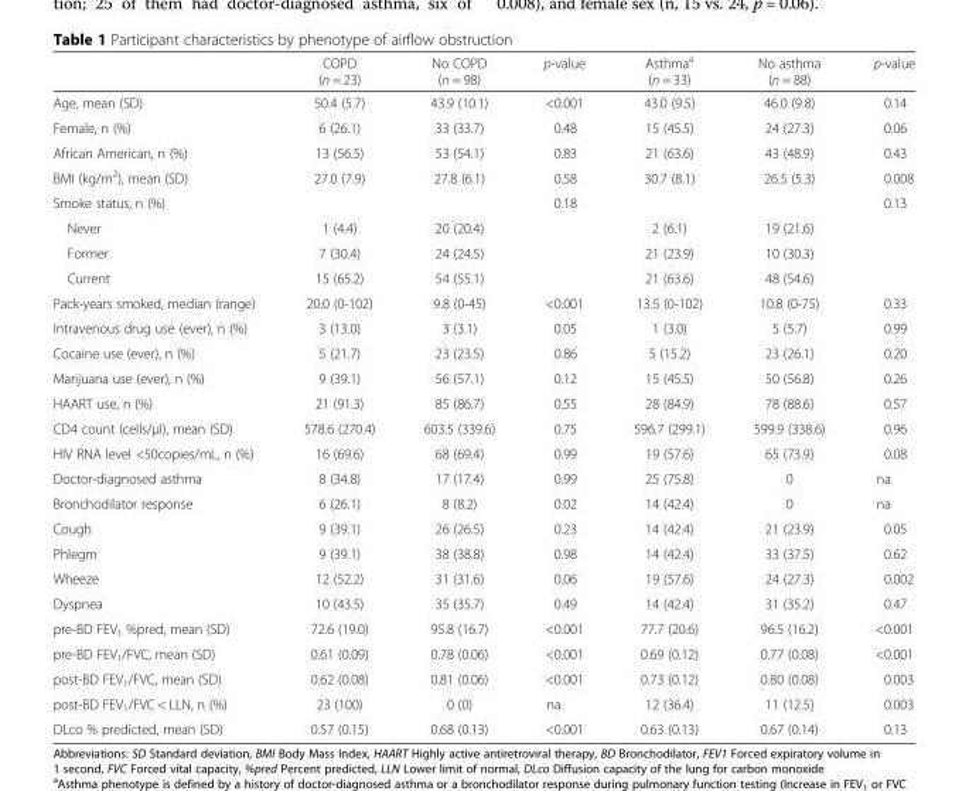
<table><thead><tr><td></td><td>COPD (n = 23)</td><td>No COPD (n = 98)</td><td>p-value</td><td>Asthma<sup>a</sup> (n = 33)</td><td>No asthma (n = 88)</td><td>p-value</td></tr></thead><tbody><tr><td>Age, mean (SD)</td><td>50.4 (5.7)</td><td>43.9 (10.1)</td><td>&lt;0.001</td><td>43.0 (9.5)</td><td>46.0 (9.8)</td><td>0.14</td></tr><tr><td>Female, n (%)</td><td>6 (26.1)</td><td>33 (33.7)</td><td>0.48</td><td>15 (45.5)</td><td>24 (27.3)</td><td>0.06</td></tr><tr><td>African American, n (%)</td><td>13 (56.5)</td><td>53 (54.1)</td><td>0.83</td><td>21 (63.6)</td><td>43 (48.9)</td><td>0.43</td></tr><tr><td>BMI (kg/m<sup>2</sup>), mean (SD)</td><td>27.0 (7.9)</td><td>27.8 (6.1)</td><td>0.58</td><td>30.7 (8.1)</td><td>26.5 (5.3)</td><td>0.008</td></tr><tr><td>Smoke status, n (%)</td><td></td><td></td><td>0.18</td><td></td><td></td><td>0.13</td></tr><tr><td>Never</td><td>1 (4.4)</td><td>20 (20.4)</td><td></td><td>2 (6.1)</td><td>19 (21.6)</td><td></td></tr><tr><td>Former</td><td>7 (30.4)</td><td>24 (24.5)</td><td></td><td>21 (23.9)</td><td>10 (30.3)</td><td></td></tr><tr><td>Current</td><td>15 (65.2)</td><td>54 (55.1)</td><td></td><td>21 (63.6)</td><td>48 (54.6)</td><td></td></tr><tr><td>Pack-years smoked, median (range)</td><td>20.0 (0-102)</td><td>9.8 (0-45)</td><td>&lt;0.001</td><td>13.5 (0-102)</td><td>10.8 (0-75)</td><td>0.33</td></tr><tr><td>Intravenous drug use (ever), n (%)</td><td>3 (13.0)</td><td>3 (3.1)</td><td>0.05</td><td>1 (3.0)</td><td>5 (5.7)</td><td>0.99</td></tr><tr><td>Cocaine use (ever), n (%)</td><td>5 (21.7)</td><td>23 (23.5)</td><td>0.86</td><td>5 (15.2)</td><td>23 (26.1)</td><td>0.20</td></tr><tr><td>Marijuana use (ever), n (%)</td><td>9 (39.1)</td><td>56 (57.1)</td><td>0.12</td><td>15 (45.5)</td><td>50 (56.8)</td><td>0.26</td></tr><tr><td>HAART use, n (%)</td><td>21 (91.3)</td><td>85 (86.7)</td><td>0.55</td><td>28 (84.9)</td><td>78 (88.6)</td><td>0.57</td></tr><tr><td>CD4 count (cells/μl), mean (SD)</td><td>578.6 (270.4)</td><td>603.5 (339.6)</td><td>0.75</td><td>596.7 (299.1)</td><td>599.9 (338.6)</td><td>0.96</td></tr><tr><td>HIV RNA level &lt;50copies/mL, n (%)</td><td>16 (69.6)</td><td>68 (69.4)</td><td>0.99</td><td>19 (57.6)</td><td>65 (73.9)</td><td>0.08</td></tr><tr><td>Doctor-diagnosed asthma</td><td>8 (34.8)</td><td>17 (17.4)</td><td>0.99</td><td>25 (75.8)</td><td>0</td><td>na</td></tr><tr><td>Bronchodilator response</td><td>6 (26.1)</td><td>8 (8.2)</td><td>0.02</td><td>14 (42.4)</td><td>0</td><td>na</td></tr><tr><td>Cough</td><td>9 (39.1)</td><td>26 (26.5)</td><td>0.23</td><td>14 (42.4)</td><td>21 (23.9)</td><td>0.05</td></tr><tr><td>Phlegm</td><td>9 (39.1)</td><td>38 (38.8)</td><td>0.98</td><td>14 (42.4)</td><td>33 (37.5)</td><td>0.62</td></tr><tr><td>Wheeze</td><td>12 (52.2)</td><td>31 (31.6)</td><td>0.06</td><td>19 (57.6)</td><td>24 (27.3)</td><td>0.002</td></tr><tr><td>Dyspnea</td><td>10 (43.5)</td><td>35 (35.7)</td><td>0.49</td><td>14 (42.4)</td><td>31 (35.2)</td><td>0.47</td></tr><tr><td>pre-BD FEV<sub>1</sub> %pred, mean (SD)</td><td>72.6 (19.0)</td><td>95.8 (16.7)</td><td>&lt;0.001</td><td>77.7 (20.6)</td><td>96.5 (16.2)</td><td>&lt;0.001</td></tr><tr><td>pre-BD FEV<sub>1</sub>/FVC, mean (SD)</td><td>0.61 (0.09)</td><td>0.78 (0.06)</td><td>&lt;0.001</td><td>0.69 (0.12)</td><td>0.77 (0.08)</td><td>&lt;0.001</td></tr><tr><td>post-BD FEV<sub>1</sub>/FVC, mean (SD)</td><td>0.62 (0.08)</td><td>0.81 (0.06)</td><td>&lt;0.001</td><td>0.73 (0.12)</td><td>0.80 (0.08)</td><td>0.003</td></tr><tr><td>post-BD FEV<sub>1</sub>/FVC &lt; LLN, n (%)</td><td>23 (100)</td><td>0 (0)</td><td>na</td><td>12 (36.4)</td><td>11 (12.5)</td><td>0.003</td></tr><tr><td>DLco % predicted, mean (SD)</td><td>0.57 (0.15)</td><td>0.68 (0.13)</td><td>&lt;0.001</td><td>0.63 (0.13)</td><td>0.67 (0.14)</td><td>0.13</td></tr></tbody></table>